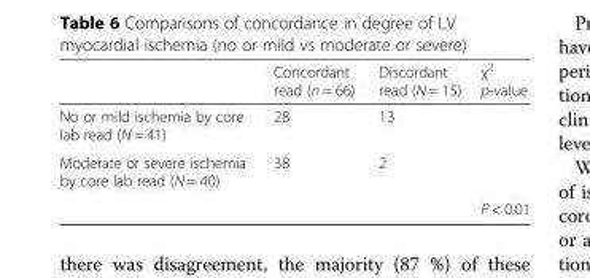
<table><thead><tr><td></td><td>Concordant read (n = 66)</td><td>Discordant read (N = 15)</td><td>χ<sup>2</sup> p-value</td></tr></thead><tbody><tr><td>No or mild ischemia by core lab read (N = 41)</td><td>28</td><td>13</td><td></td></tr><tr><td rowspan="2">Moderate or severe ischemia by core lab read (N = 40)</td><td>38</td><td>2</td><td></td></tr><tr><td></td><td></td><td>P &lt; 0.01</td></tr></tbody></table>